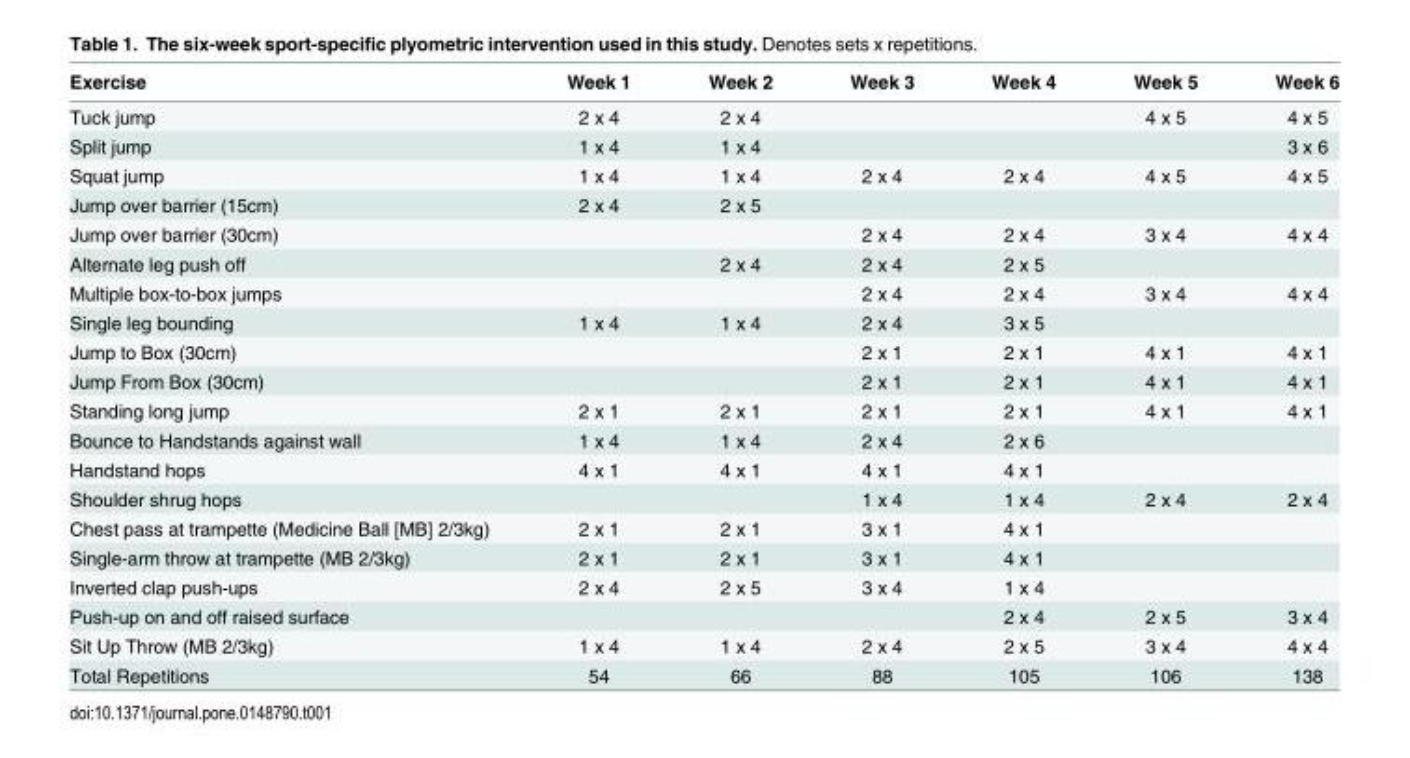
<table><thead><tr><td>Exercise</td><td>Week 1</td><td>Week 2</td><td>Week 3</td><td>Week 4</td><td>Week 5</td><td>Week 6</td></tr></thead><tbody><tr><td>Tuck jump</td><td>2 x 4</td><td>2 x 4</td><td></td><td></td><td>4 x 5</td><td>4 x 5</td></tr><tr><td>Split jump</td><td>1 x 4</td><td>1 x 4</td><td></td><td></td><td></td><td>3 x 6</td></tr><tr><td>Squat jump</td><td>1 x 4</td><td>1 x 4</td><td>2 x 4</td><td>2 x 4</td><td>4 x 5</td><td>4 x 5</td></tr><tr><td>Jump over barrier (15cm)</td><td>2 x 4</td><td>2 x 5</td><td></td><td></td><td></td><td></td></tr><tr><td>Jump over barrier (30cm)</td><td></td><td></td><td>2 x 4</td><td>2 x 4</td><td>3 x 4</td><td>4 x 4</td></tr><tr><td>Alternate leg push off</td><td></td><td>2 x 4</td><td>2 x 4</td><td>2 x 5</td><td></td><td></td></tr><tr><td>Multiple box-to-box jumps</td><td></td><td></td><td>2 x 4</td><td>2 x 4</td><td>3 x 4</td><td>4 x 4</td></tr><tr><td>Single leg bounding</td><td>1 x 4</td><td>1 x 4</td><td>2 x 4</td><td>3 x 5</td><td></td><td></td></tr><tr><td>Jump to Box (30cm)</td><td></td><td></td><td>2 x 1</td><td>2 x 1</td><td>4 x 1</td><td>4 x 1</td></tr><tr><td>Jump From Box (30cm)</td><td></td><td></td><td>2 x 1</td><td>2 x 1</td><td>4 x 1</td><td>4 x 1</td></tr><tr><td>Standing long jump</td><td>2 x 1</td><td>2 x 1</td><td>2 x 1</td><td>2 x 1</td><td>4 x 1</td><td>4 x 1</td></tr><tr><td>Bounce to Handstands against wall</td><td>1 x 4</td><td>1 x 4</td><td>2 x 4</td><td>2 x 6</td><td></td><td></td></tr><tr><td>Handstand hops</td><td>4 x 1</td><td>4 x 1</td><td>4 x 1</td><td>4 x 1</td><td></td><td></td></tr><tr><td>Shoulder shrug hops</td><td></td><td></td><td>1 x 4</td><td>1 x 4</td><td>2 x 4</td><td>2 x 4</td></tr><tr><td>Chest pass at trampette (Medicine Ball [MB] 2/3kg)</td><td>2 x 1</td><td>2 x 1</td><td>3 x 1</td><td>4 x 1</td><td></td><td></td></tr><tr><td>Single-arm throw at trampette (MB 2/3kg)</td><td>2 x 1</td><td>2 x 1</td><td>3 x 1</td><td>4 x 1</td><td></td><td></td></tr><tr><td>Inverted clap push-ups</td><td>2 x 4</td><td>2 x 5</td><td>3 x 4</td><td>1 x 4</td><td></td><td></td></tr><tr><td>Push-up on and off raised surface</td><td></td><td></td><td></td><td>2 x 4</td><td>2 x 5</td><td>3 x 4</td></tr><tr><td>Sit Up Throw (MB 2/3kg)</td><td>1 x 4</td><td>1 x 4</td><td>2 x 4</td><td>2 x 5</td><td>3 x 4</td><td>4 x 4</td></tr><tr><td>Total Repetitions</td><td>54</td><td>66</td><td>88</td><td>105</td><td>106</td><td>138</td></tr></tbody></table>